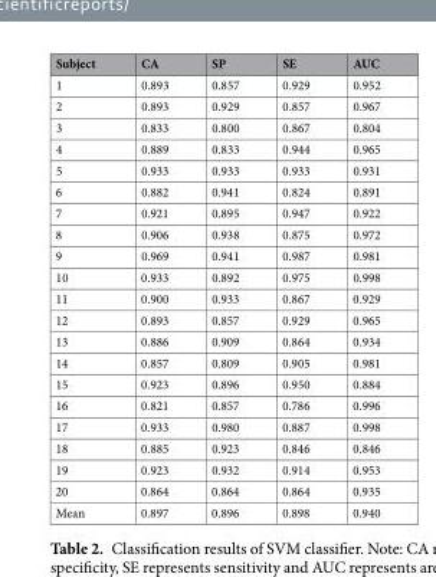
<table><thead><tr><td>Subject</td><td>CA</td><td>SP</td><td>SE</td><td>AUC</td></tr></thead><tbody><tr><td>1</td><td>0.893</td><td>0.857</td><td>0.929</td><td>0.952</td></tr><tr><td>2</td><td>0.893</td><td>0.929</td><td>0.857</td><td>0.967</td></tr><tr><td>3</td><td>0.833</td><td>0.800</td><td>0.867</td><td>0.804</td></tr><tr><td>4</td><td>0.889</td><td>0.833</td><td>0.944</td><td>0.965</td></tr><tr><td>5</td><td>0.933</td><td>0.933</td><td>0.933</td><td>0.931</td></tr><tr><td>6</td><td>0.882</td><td>0.941</td><td>0.824</td><td>0.891</td></tr><tr><td>7</td><td>0.921</td><td>0.895</td><td>0.947</td><td>0.922</td></tr><tr><td>8</td><td>0.906</td><td>0.938</td><td>0.875</td><td>0.972</td></tr><tr><td>9</td><td>0.969</td><td>0.941</td><td>0.987</td><td>0.981</td></tr><tr><td>10</td><td>0.933</td><td>0.892</td><td>0.975</td><td>0.998</td></tr><tr><td>11</td><td>0.900</td><td>0.933</td><td>0.867</td><td>0.929</td></tr><tr><td>12</td><td>0.893</td><td>0.857</td><td>0.929</td><td>0.965</td></tr><tr><td>13</td><td>0.886</td><td>0.909</td><td>0.864</td><td>0.934</td></tr><tr><td>14</td><td>0.857</td><td>0.809</td><td>0.905</td><td>0.981</td></tr><tr><td>15</td><td>0.923</td><td>0.896</td><td>0.950</td><td>0.884</td></tr><tr><td>16</td><td>0.821</td><td>0.857</td><td>0.786</td><td>0.996</td></tr><tr><td>17</td><td>0.933</td><td>0.980</td><td>0.887</td><td>0.998</td></tr><tr><td>18</td><td>0.885</td><td>0.923</td><td>0.846</td><td>0.846</td></tr><tr><td>19</td><td>0.923</td><td>0.932</td><td>0.914</td><td>0.953</td></tr><tr><td>20</td><td>0.864</td><td>0.864</td><td>0.864</td><td>0.935</td></tr><tr><td>Mean</td><td>0.897</td><td>0.896</td><td>0.898</td><td>0.940</td></tr></tbody></table>